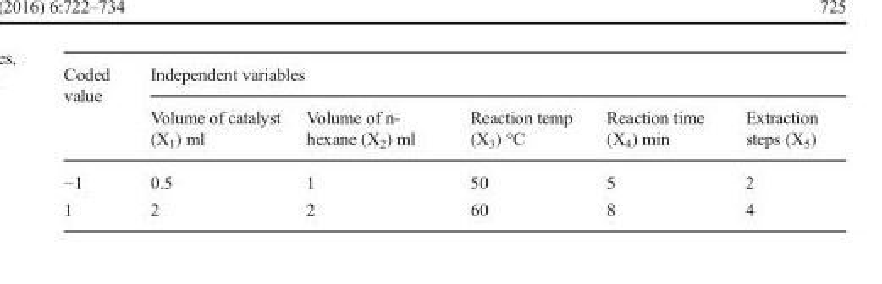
<table><thead><tr><td rowspan="2">Coded value</td><td colspan="5">Independent variables</td></tr><tr><td>Volume of catalyst (X<sub>1</sub>) ml</td><td>Volume of n- hexane (X<sub>2</sub>) ml</td><td>Reaction temp (X<sub>3</sub>) °C</td><td>Reaction time (X<sub>4</sub>) min</td><td>Extraction steps (X<sub>5</sub>)</td></tr></thead><tbody><tr><td>−1</td><td>0.5</td><td>1</td><td>50</td><td>5</td><td>2</td></tr><tr><td>1</td><td>2</td><td>2</td><td>60</td><td>8</td><td>4</td></tr></tbody></table>